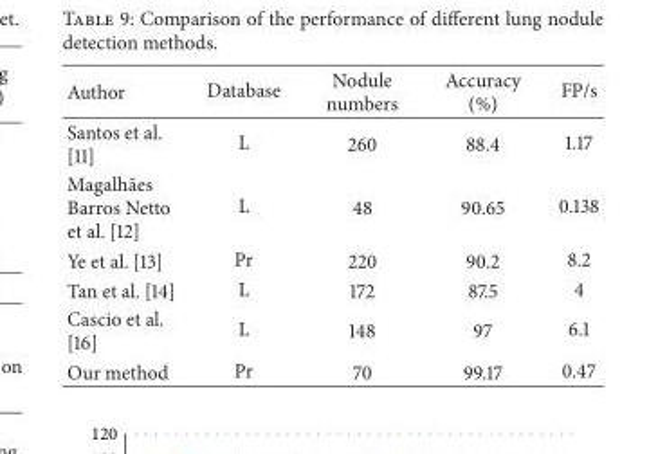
<table><thead><tr><td>Author</td><td>Database</td><td>Nodule numbers</td><td>Accuracy (%)</td><td>FP/s</td></tr></thead><tbody><tr><td>Santos et al. [11]</td><td>L</td><td>260</td><td>88.4</td><td>1.17</td></tr><tr><td>Magalh˜aes Barros Netto et al. [12]</td><td>L</td><td>48</td><td>90.65</td><td>0.138</td></tr><tr><td>Ye et al. [13]</td><td>Pr</td><td>220</td><td>90.2</td><td>8.2</td></tr><tr><td>Tan et al. [14]</td><td>L</td><td>172</td><td>87.5</td><td>4</td></tr><tr><td>Cascio et al. [16]</td><td>L</td><td>148</td><td>97</td><td>6.1</td></tr><tr><td>Our method</td><td>Pr</td><td>70</td><td>99.17</td><td>0.47</td></tr></tbody></table>